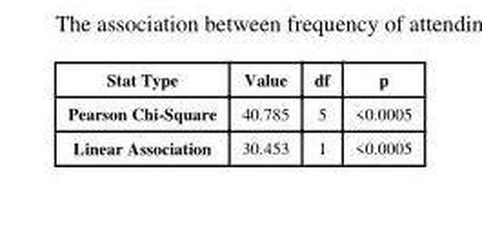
<table><thead><tr><td>Stat Type</td><td>Value</td><td>df</td><td>p</td></tr></thead><tbody><tr><td>Pearson Chi-Square</td><td>40.785</td><td>5</td><td>&lt;0.0005</td></tr><tr><td>Linear Association</td><td>30.453</td><td>1</td><td>&lt;0.0005</td></tr></tbody></table>